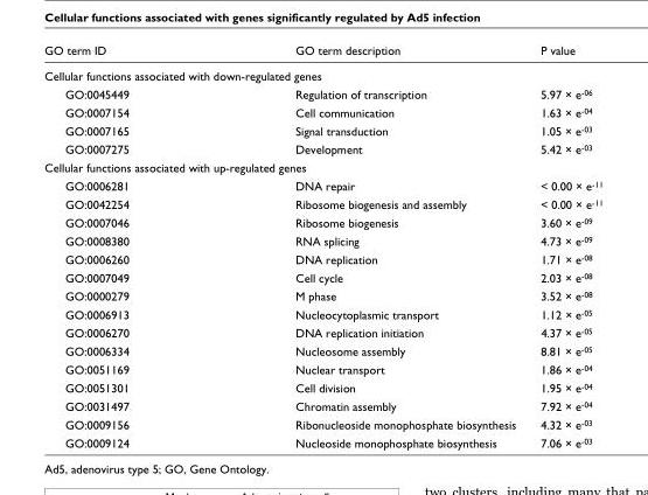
<table><thead><tr><td>GO term ID</td><td>GO term description</td><td>P value</td></tr></thead><tbody><tr><td colspan="3">Cellular functions associated with down-regulated genes</td></tr><tr><td>GO:0045449</td><td>Regulation of transcription</td><td>5.97 × e-06</td></tr><tr><td>GO:0007154</td><td>Cell communication</td><td>1.63 × e-04</td></tr><tr><td>GO:0007165</td><td>Signal transduction</td><td>1.05 × e-03</td></tr><tr><td>GO:0007275</td><td>Development</td><td>5.42 × e-03</td></tr><tr><td colspan="3">Cellular functions associated with up-regulated genes</td></tr><tr><td>GO:0006281</td><td>DNA repair</td><td>&lt; 0.00 × e-11</td></tr><tr><td>GO:0042254</td><td>Ribosome biogenesis and assembly</td><td>&lt; 0.00 × e-11</td></tr><tr><td>GO:0007046</td><td>Ribosome biogenesis</td><td>3.60 × e-09</td></tr><tr><td>GO:0008380</td><td>RNA splicing</td><td>4.73 × e-09</td></tr><tr><td>GO:0006260</td><td>DNA replication</td><td>1.71 × e-08</td></tr><tr><td>GO:0007049</td><td>Cell cycle</td><td>2.03 × e-08</td></tr><tr><td>GO:0000279</td><td>M phase</td><td>3.52 × e-08</td></tr><tr><td>GO:0006913</td><td>Nucleocytoplasmic transport</td><td>1.12 × e-05</td></tr><tr><td>GO:0006270</td><td>DNA replication initiation</td><td>4.37 × e-05</td></tr><tr><td>GO:0006334</td><td>Nucleosome assembly</td><td>8.81 × e-05</td></tr><tr><td>GO:0051169</td><td>Nuclear transport</td><td>1.86 × e-04</td></tr><tr><td>GO:0051301</td><td>Cell division</td><td>1.95 × e-04</td></tr><tr><td>GO:0031497</td><td>Chromatin assembly</td><td>7.92 × e-04</td></tr><tr><td>GO:0009156</td><td>Ribonucleoside monophosphate biosynthesis</td><td>4.32 × e-03</td></tr><tr><td>GO:0009124</td><td>Nucleoside monophosphate biosynthesis</td><td>7.06 × e-03</td></tr></tbody></table>